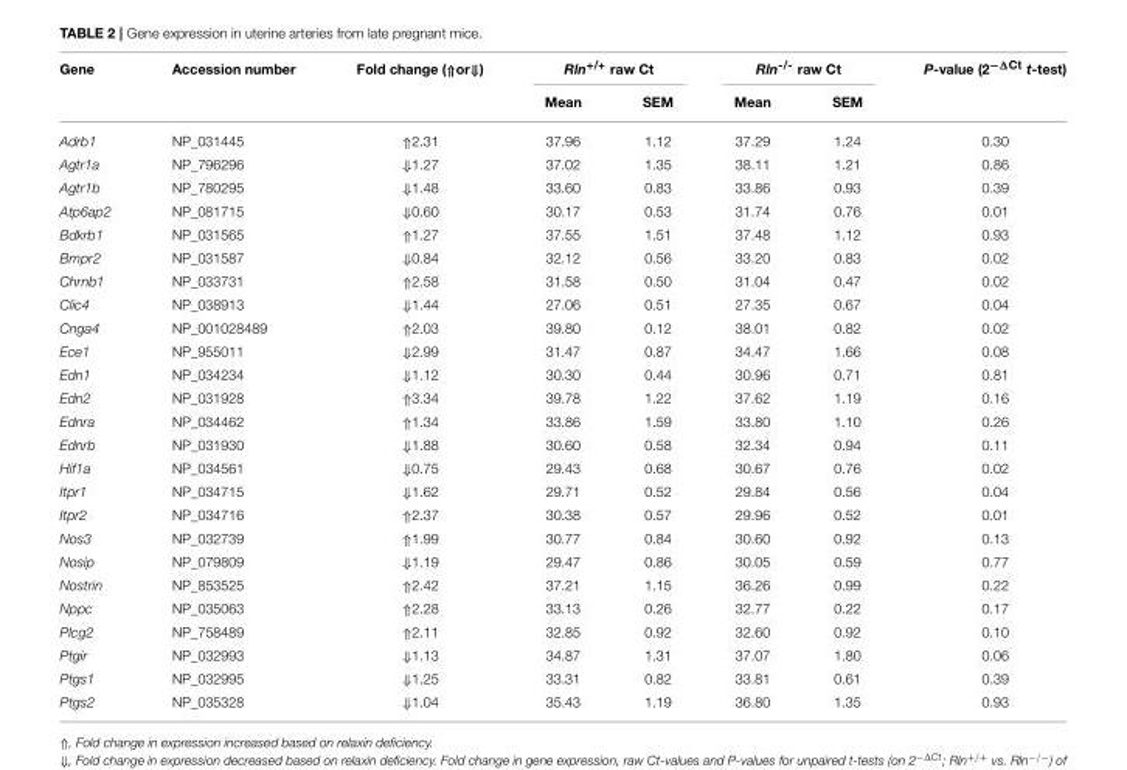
<table><thead><tr><td rowspan="2">Gene</td><td rowspan="2">Accession number</td><td rowspan="2">Fold change (⇑or⇓)</td><td colspan="2">Rln<sup>+/+</sup> raw Ct</td><td colspan="2">Rln<sup>-/-</sup> raw Ct</td><td rowspan="2">P-value (2<sup>−ΔCt</sup> t-test)</td></tr><tr><td>Mean</td><td>SEM</td><td>Mean</td><td>SEM</td></tr></thead><tbody><tr><td>Adrb1</td><td>NP_031445</td><td>⇑2.31</td><td>37.96</td><td>1.12</td><td>37.29</td><td>1.24</td><td>0.30</td></tr><tr><td>Agtr1a</td><td>NP_796296</td><td>⇓1.27</td><td>37.02</td><td>1.35</td><td>38.11</td><td>1.21</td><td>0.86</td></tr><tr><td>Agtr1b</td><td>NP_780295</td><td>⇓1.48</td><td>33.60</td><td>0.83</td><td>33.86</td><td>0.93</td><td>0.39</td></tr><tr><td>Atp6ap2</td><td>NP_081715</td><td>⇓0.60</td><td>30.17</td><td>0.53</td><td>31.74</td><td>0.76</td><td>0.01</td></tr><tr><td>Bdkrb1</td><td>NP_031565</td><td>⇑1.27</td><td>37.55</td><td>1.51</td><td>37.48</td><td>1.12</td><td>0.93</td></tr><tr><td>Bmpr2</td><td>NP_031587</td><td>⇓0.84</td><td>32.12</td><td>0.56</td><td>33.20</td><td>0.83</td><td>0.02</td></tr><tr><td>Chrnb1</td><td>NP_033731</td><td>⇑2.58</td><td>31.58</td><td>0.50</td><td>31.04</td><td>0.47</td><td>0.02</td></tr><tr><td>Clic4</td><td>NP_038913</td><td>⇓1.44</td><td>27.06</td><td>0.51</td><td>27.35</td><td>0.67</td><td>0.04</td></tr><tr><td>Cnga4</td><td>NP_001028489</td><td>⇑2.03</td><td>39.80</td><td>0.12</td><td>38.01</td><td>0.82</td><td>0.02</td></tr><tr><td>Ece1</td><td>NP_955011</td><td>⇓2.99</td><td>31.47</td><td>0.87</td><td>34.47</td><td>1.66</td><td>0.08</td></tr><tr><td>Edn1</td><td>NP_034234</td><td>⇓1.12</td><td>30.30</td><td>0.44</td><td>30.96</td><td>0.71</td><td>0.81</td></tr><tr><td>Edn2</td><td>NP_031928</td><td>⇑3.34</td><td>39.78</td><td>1.22</td><td>37.62</td><td>1.19</td><td>0.16</td></tr><tr><td>Ednra</td><td>NP_034462</td><td>⇑1.34</td><td>33.86</td><td>1.59</td><td>33.80</td><td>1.10</td><td>0.26</td></tr><tr><td>Ednrb</td><td>NP_031930</td><td>⇓1.88</td><td>30.60</td><td>0.58</td><td>32.34</td><td>0.94</td><td>0.11</td></tr><tr><td>Hif1a</td><td>NP_034561</td><td>⇓0.75</td><td>29.43</td><td>0.68</td><td>30.67</td><td>0.76</td><td>0.02</td></tr><tr><td>Itpr1</td><td>NP_034715</td><td>⇓1.62</td><td>29.71</td><td>0.52</td><td>29.84</td><td>0.56</td><td>0.04</td></tr><tr><td>Itpr2</td><td>NP_034716</td><td>⇑2.37</td><td>30.38</td><td>0.57</td><td>29.96</td><td>0.52</td><td>0.01</td></tr><tr><td>Nos3</td><td>NP_032739</td><td>⇑1.99</td><td>30.77</td><td>0.84</td><td>30.60</td><td>0.92</td><td>0.13</td></tr><tr><td>Nosip</td><td>NP_079809</td><td>⇓1.19</td><td>29.47</td><td>0.86</td><td>30.05</td><td>0.59</td><td>0.77</td></tr><tr><td>Nostrin</td><td>NP_853525</td><td>⇑2.42</td><td>37.21</td><td>1.15</td><td>36.26</td><td>0.99</td><td>0.22</td></tr><tr><td>Nppc</td><td>NP_035063</td><td>⇑2.28</td><td>33.13</td><td>0.26</td><td>32.77</td><td>0.22</td><td>0.17</td></tr><tr><td>Plcg2</td><td>NP_758489</td><td>⇑2.11</td><td>32.85</td><td>0.92</td><td>32.60</td><td>0.92</td><td>0.10</td></tr><tr><td>Ptgir</td><td>NP_032993</td><td>⇓1.13</td><td>34.87</td><td>1.31</td><td>37.07</td><td>1.80</td><td>0.06</td></tr><tr><td>Ptgs1</td><td>NP_032995</td><td>⇓1.25</td><td>33.31</td><td>0.82</td><td>33.81</td><td>0.61</td><td>0.39</td></tr><tr><td>Ptgs2</td><td>NP_035328</td><td>⇓1.04</td><td>35.43</td><td>1.19</td><td>36.80</td><td>1.35</td><td>0.93</td></tr></tbody></table>